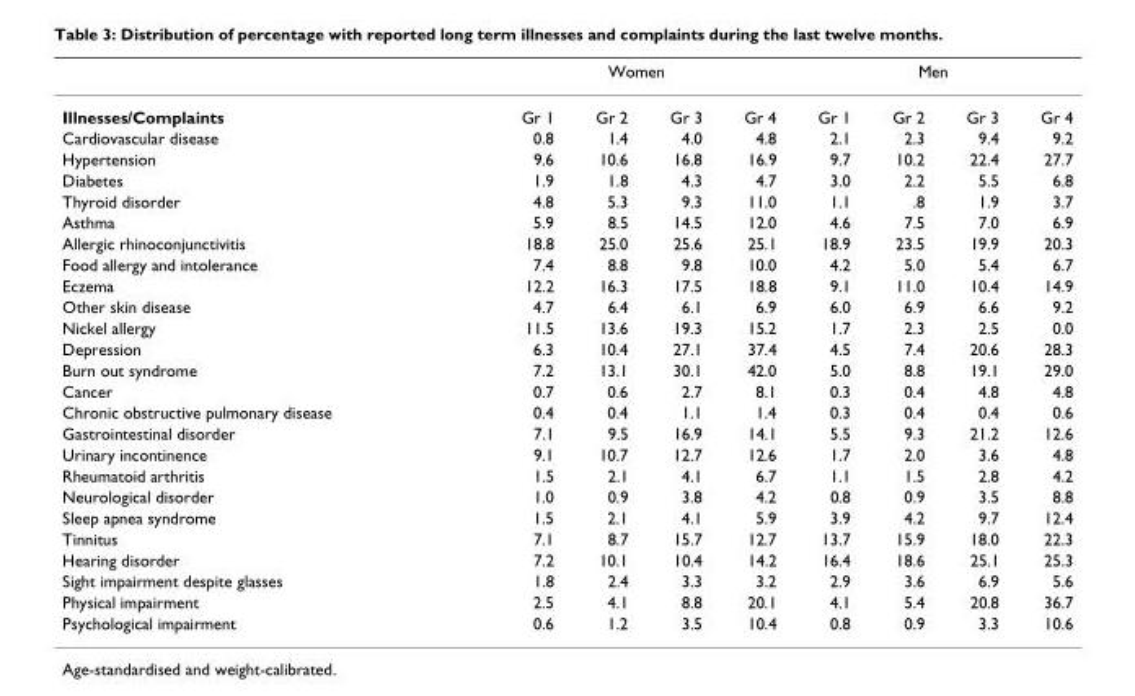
<table><thead><tr><td rowspan="2">Illnesses/Complaints</td><td colspan="4">Women</td><td colspan="4">Men</td></tr><tr><td>Gr 1</td><td>Gr 2</td><td>Gr 3</td><td>Gr 4</td><td>Gr 1</td><td>Gr 2</td><td>Gr 3</td><td>Gr 4</td></tr></thead><tbody><tr><td>Cardiovascular disease</td><td>0.8</td><td>1.4</td><td>4.0</td><td>4.8</td><td>2.1</td><td>2.3</td><td>9.4</td><td>9.2</td></tr><tr><td>Hypertension</td><td>9.6</td><td>10.6</td><td>16.8</td><td>16.9</td><td>9.7</td><td>10.2</td><td>22.4</td><td>27.7</td></tr><tr><td>Diabetes</td><td>1.9</td><td>1.8</td><td>4.3</td><td>4.7</td><td>3.0</td><td>2.2</td><td>5.5</td><td>6.8</td></tr><tr><td>Thyroid disorder</td><td>4.8</td><td>5.3</td><td>9.3</td><td>11.0</td><td>1.1</td><td>.8</td><td>1.9</td><td>3.7</td></tr><tr><td>Asthma</td><td>5.9</td><td>8.5</td><td>14.5</td><td>12.0</td><td>4.6</td><td>7.5</td><td>7.0</td><td>6.9</td></tr><tr><td>Allergic rhinoconjunctivitis</td><td>18.8</td><td>25.0</td><td>25.6</td><td>25.1</td><td>18.9</td><td>23.5</td><td>19.9</td><td>20.3</td></tr><tr><td>Food allergy and intolerance</td><td>7.4</td><td>8.8</td><td>9.8</td><td>10.0</td><td>4.2</td><td>5.0</td><td>5.4</td><td>6.7</td></tr><tr><td>Eczema</td><td>12.2</td><td>16.3</td><td>17.5</td><td>18.8</td><td>9.1</td><td>11.0</td><td>10.4</td><td>14.9</td></tr><tr><td>Other skin disease</td><td>4.7</td><td>6.4</td><td>6.1</td><td>6.9</td><td>6.0</td><td>6.9</td><td>6.6</td><td>9.2</td></tr><tr><td>Nickel allergy</td><td>11.5</td><td>13.6</td><td>19.3</td><td>15.2</td><td>1.7</td><td>2.3</td><td>2.5</td><td>0.0</td></tr><tr><td>Depression</td><td>6.3</td><td>10.4</td><td>27.1</td><td>37.4</td><td>4.5</td><td>7.4</td><td>20.6</td><td>28.3</td></tr><tr><td>Burn out syndrome</td><td>7.2</td><td>13.1</td><td>30.1</td><td>42.0</td><td>5.0</td><td>8.8</td><td>19.1</td><td>29.0</td></tr><tr><td>Cancer</td><td>0.7</td><td>0.6</td><td>2.7</td><td>8.1</td><td>0.3</td><td>0.4</td><td>4.8</td><td>4.8</td></tr><tr><td>Chronic obstructive pulmonary disease</td><td>0.4</td><td>0.4</td><td>1.1</td><td>1.4</td><td>0.3</td><td>0.4</td><td>0.4</td><td>0.6</td></tr><tr><td>Gastrointestinal disorder</td><td>7.1</td><td>9.5</td><td>16.9</td><td>14.1</td><td>5.5</td><td>9.3</td><td>21.2</td><td>12.6</td></tr><tr><td>Urinary incontinence</td><td>9.1</td><td>10.7</td><td>12.7</td><td>12.6</td><td>1.7</td><td>2.0</td><td>3.6</td><td>4.8</td></tr><tr><td>Rheumatoid arthritis</td><td>1.5</td><td>2.1</td><td>4.1</td><td>6.7</td><td>1.1</td><td>1.5</td><td>2.8</td><td>4.2</td></tr><tr><td>Neurological disorder</td><td>1.0</td><td>0.9</td><td>3.8</td><td>4.2</td><td>0.8</td><td>0.9</td><td>3.5</td><td>8.8</td></tr><tr><td>Sleep apnea syndrome</td><td>1.5</td><td>2.1</td><td>4.1</td><td>5.9</td><td>3.9</td><td>4.2</td><td>9.7</td><td>12.4</td></tr><tr><td>Tinnitus</td><td>7.1</td><td>8.7</td><td>15.7</td><td>12.7</td><td>13.7</td><td>15.9</td><td>18.0</td><td>22.3</td></tr><tr><td>Hearing disorder</td><td>7.2</td><td>10.1</td><td>10.4</td><td>14.2</td><td>16.4</td><td>18.6</td><td>25.1</td><td>25.3</td></tr><tr><td>Sight impairment despite glasses</td><td>1.8</td><td>2.4</td><td>3.3</td><td>3.2</td><td>2.9</td><td>3.6</td><td>6.9</td><td>5.6</td></tr><tr><td>Physical impairment</td><td>2.5</td><td>4.1</td><td>8.8</td><td>20.1</td><td>4.1</td><td>5.4</td><td>20.8</td><td>36.7</td></tr><tr><td>Psychological impairment</td><td>0.6</td><td>1.2</td><td>3.5</td><td>10.4</td><td>0.8</td><td>0.9</td><td>3.3</td><td>10.6</td></tr></tbody></table>